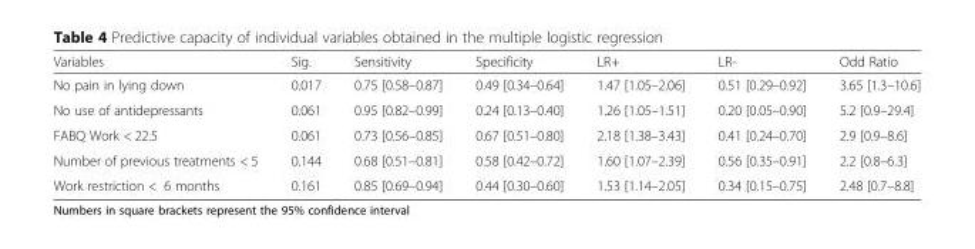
<table><thead><tr><td>Variables</td><td>Sig.</td><td>Sensitivity</td><td>Specificity</td><td>LR+</td><td>LR-</td><td>Odd Ratio</td></tr></thead><tbody><tr><td>No pain in lying down</td><td>0.017</td><td>0.75 [0.58–0.87]</td><td>0.49 [0.34–0.64]</td><td>1.47 [1.05–2.06]</td><td>0.51 [0.29–0.92]</td><td>3.65 [1.3–10.6]</td></tr><tr><td>No use of antidepressants</td><td>0.061</td><td>0.95 [0.82–0.99]</td><td>0.24 [0.13–0.40]</td><td>1.26 [1.05–1.51]</td><td>0.20 [0.05–0.90]</td><td>5.2 [0.9–29.4]</td></tr><tr><td>FABQ Work &lt; 22.5</td><td>0.061</td><td>0.73 [0.56–0.85]</td><td>0.67 [0.51–0.80]</td><td>2.18 [1.38–3.43]</td><td>0.41 [0.24–0.70]</td><td>2.9 [0.9–8.6]</td></tr><tr><td>Number of previous treatments &lt; 5</td><td>0.144</td><td>0.68 [0.51–0.81]</td><td>0.58 [0.42–0.72]</td><td>1.60 [1.07–2.39]</td><td>0.56 [0.35–0.91]</td><td>2.2 [0.8–6.3]</td></tr><tr><td>Work restriction &lt; 6 months</td><td>0.161</td><td>0.85 [0.69–0.94]</td><td>0.44 [0.30–0.60]</td><td>1.53 [1.14–2.05]</td><td>0.34 [0.15–0.75]</td><td>2.48 [0.7–8.8]</td></tr></tbody></table>